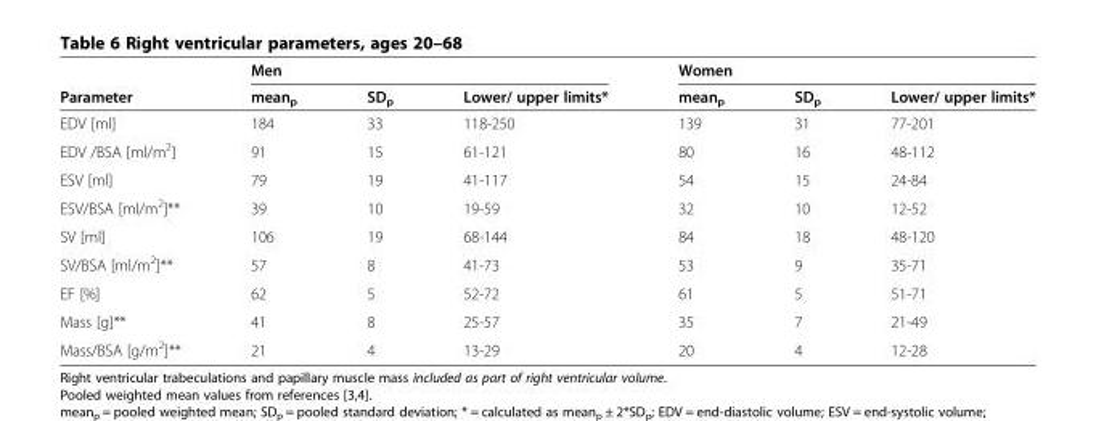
<table><thead><tr><td rowspan="2">Parameter</td><td colspan="3">Men</td><td colspan="3">Women</td></tr><tr><td>mean<sub>p</sub></td><td>SD<sub>p</sub></td><td>Lower/ upper limits*</td><td>mean<sub>p</sub></td><td>SD<sub>p</sub></td><td>Lower/ upper limits*</td></tr></thead><tbody><tr><td>EDV [ml]</td><td>184</td><td>33</td><td>118-250</td><td>139</td><td>31</td><td>77-201</td></tr><tr><td>EDV /BSA [ml/m<sup>2</sup>]</td><td>91</td><td>15</td><td>61-121</td><td>80</td><td>16</td><td>48-112</td></tr><tr><td>ESV [ml]</td><td>79</td><td>19</td><td>41-117</td><td>54</td><td>15</td><td>24-84</td></tr><tr><td>ESV/BSA [ml/m<sup>2</sup>]**</td><td>39</td><td>10</td><td>19-59</td><td>32</td><td>10</td><td>12-52</td></tr><tr><td>SV [ml]</td><td>106</td><td>19</td><td>68-144</td><td>84</td><td>18</td><td>48-120</td></tr><tr><td>SV/BSA [ml/m<sup>2</sup>]**</td><td>57</td><td>8</td><td>41-73</td><td>53</td><td>9</td><td>35-71</td></tr><tr><td>EF [%]</td><td>62</td><td>5</td><td>52-72</td><td>61</td><td>5</td><td>51-71</td></tr><tr><td>Mass [g]**</td><td>41</td><td>8</td><td>25-57</td><td>35</td><td>7</td><td>21-49</td></tr><tr><td>Mass/BSA [g/m<sup>2</sup>]**</td><td>21</td><td>4</td><td>13-29</td><td>20</td><td>4</td><td>12-28</td></tr></tbody></table>